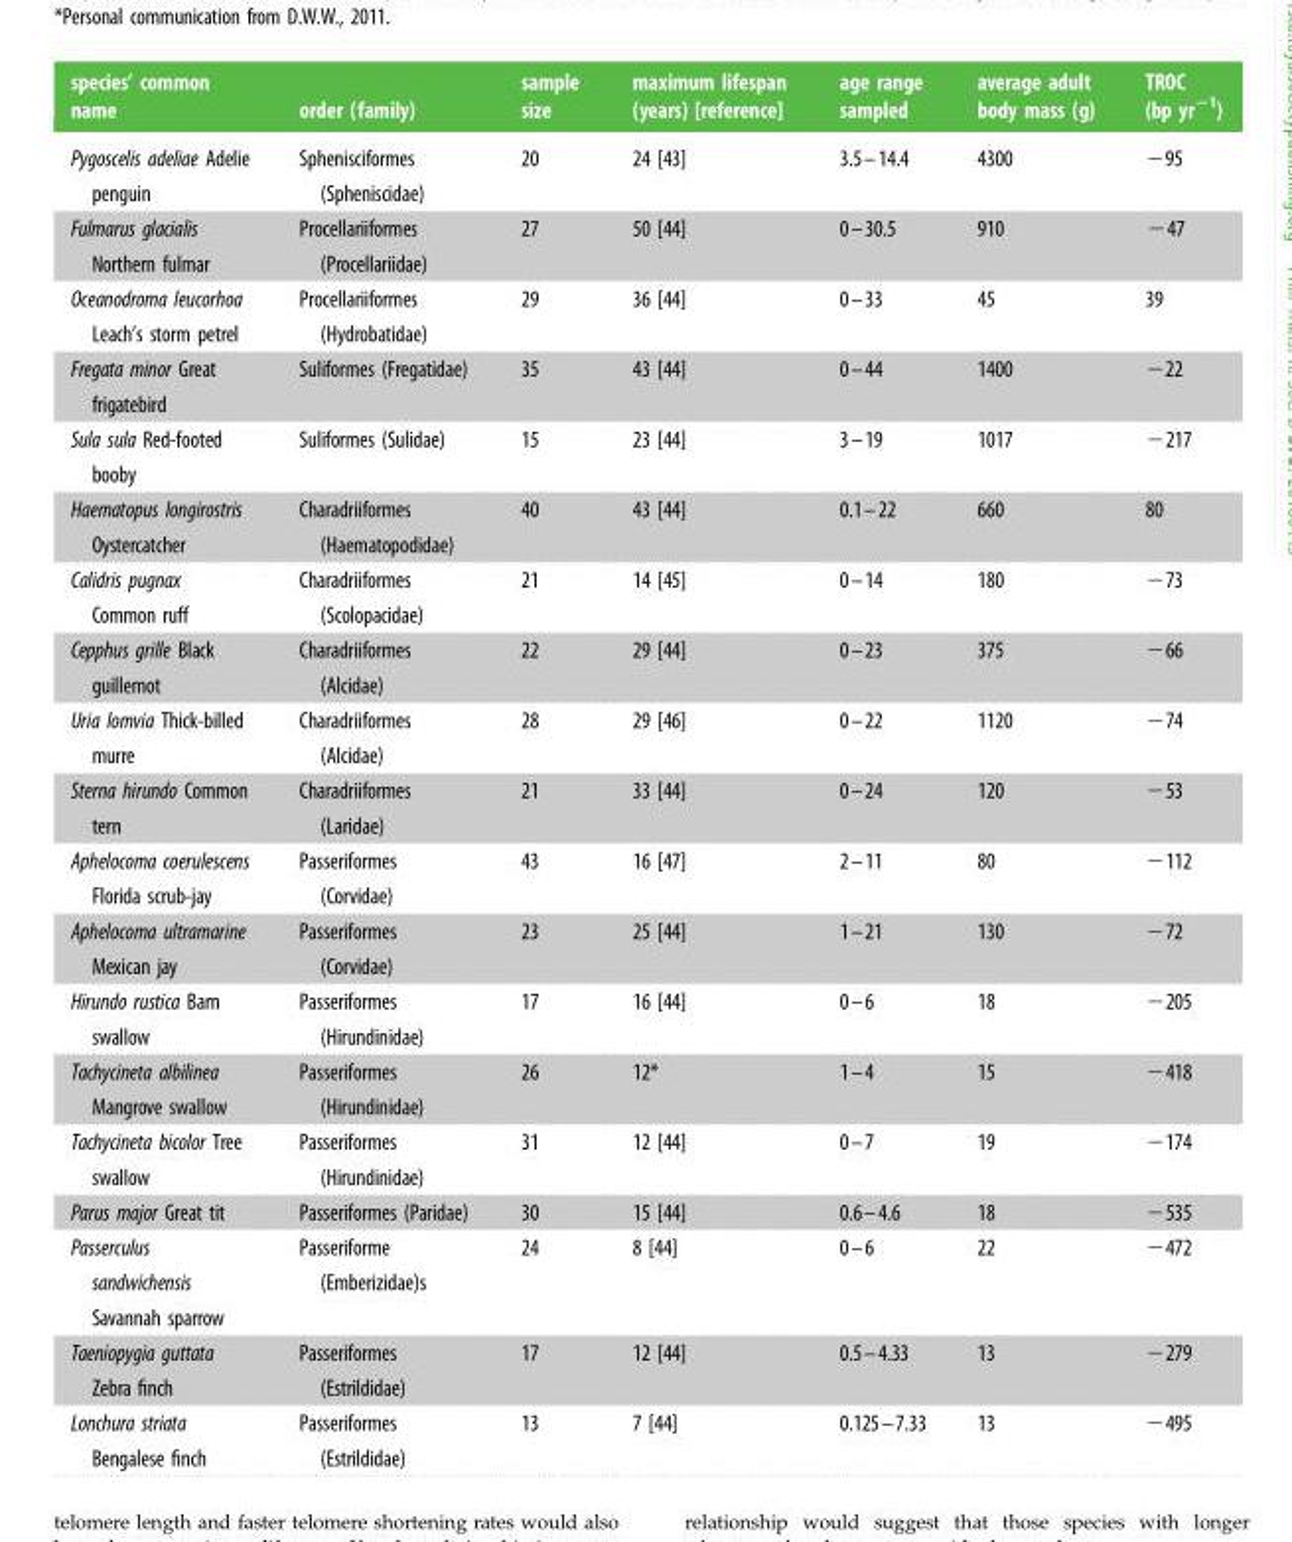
<table><thead><tr><td>species’ common name</td><td>order (family)</td><td>sample size</td><td>maximum lifespan (years) [reference]</td><td>age range sampled</td><td>average adult body mass (g)</td><td>TROC (bp yr<sup>−1</sup>)</td></tr></thead><tbody><tr><td>Pygoscelis adeliae Adelie penguin</td><td>Sphenisciformes (Spheniscidae)</td><td>20</td><td>24 [43]</td><td>3.5–14.4</td><td>4300</td><td>−95</td></tr><tr><td>Fulmarus glacialis Northern fulmar</td><td>Procellariiformes (Procellariidae)</td><td>27</td><td>50 [44]</td><td>0–30.5</td><td>910</td><td>−47</td></tr><tr><td>Oceanodroma leucorhoa Leach’s storm petrel</td><td>Procellariiformes (Hydrobatidae)</td><td>29</td><td>36 [44]</td><td>0–33</td><td>45</td><td>39</td></tr><tr><td>Fregata minor Great frigatebird</td><td>Suliformes (Fregatidae)</td><td>35</td><td>43 [44]</td><td>0–44</td><td>1400</td><td>−22</td></tr><tr><td>Sula sula Red-footed booby</td><td>Suliformes (Sulidae)</td><td>15</td><td>23 [44]</td><td>3–19</td><td>1017</td><td>−217</td></tr><tr><td>Haematopus longirostris Oystercatcher</td><td>Charadriiformes (Haematopodidae)</td><td>40</td><td>43 [44]</td><td>0.1–22</td><td>660</td><td>80</td></tr><tr><td>Calidris pugnax Common ruff</td><td>Charadriiformes (Scolopacidae)</td><td>21</td><td>14 [45]</td><td>0–14</td><td>180</td><td>−73</td></tr><tr><td>Cepphus grille Black guillemot</td><td>Charadriiformes (Alcidae)</td><td>22</td><td>29 [44]</td><td>0–23</td><td>375</td><td>−66</td></tr><tr><td>Uria lomvia Thick-billed murre</td><td>Charadriiformes (Alcidae)</td><td>28</td><td>29 [46]</td><td>0–22</td><td>1120</td><td>−74</td></tr><tr><td>Sterna hirundo Common tern</td><td>Charadriiformes (Laridae)</td><td>21</td><td>33 [44]</td><td>0–24</td><td>120</td><td>−53</td></tr><tr><td>Aphelocoma coerulescens Florida scrub-jay</td><td>Passeriformes (Corvidae)</td><td>43</td><td>16 [47]</td><td>2–11</td><td>80</td><td>−112</td></tr><tr><td>Aphelocoma ultramarine Mexican jay</td><td>Passeriformes (Corvidae)</td><td>23</td><td>25 [44]</td><td>1–21</td><td>130</td><td>−72</td></tr><tr><td>Hirundo rustica Barn swallow</td><td>Passeriformes (Hirundinidae)</td><td>17</td><td>16 [44]</td><td>0–6</td><td>18</td><td>−205</td></tr><tr><td>Tachycineta albilinea Mangrove swallow</td><td>Passeriformes (Hirundinidae)</td><td>26</td><td>12*</td><td>1–4</td><td>15</td><td>−418</td></tr><tr><td>Tachycineta bicolor Tree swallow</td><td>Passeriformes (Hirundinidae)</td><td>31</td><td>12 [44]</td><td>0–7</td><td>19</td><td>−174</td></tr><tr><td>Parus major Great tit</td><td>Passeriformes (Paridae)</td><td>30</td><td>15 [44]</td><td>0.6–4.6</td><td>18</td><td>−535</td></tr><tr><td>Passerculus sandwichensis Savannah sparrow</td><td>Passeriforme (Emberizidae)s</td><td>24</td><td>8 [44]</td><td>0–6</td><td>22</td><td>−472</td></tr><tr><td>Taeniopygia guttata Zebra finch</td><td>Passeriformes (Estrildidae)</td><td>17</td><td>12 [44]</td><td>0.5–4.33</td><td>13</td><td>−279</td></tr><tr><td>Lonchura striata Bengalese finch</td><td>Passeriformes (Estrildidae)</td><td>13</td><td>7 [44]</td><td>0.125–7.33</td><td>13</td><td>−495</td></tr></tbody></table>